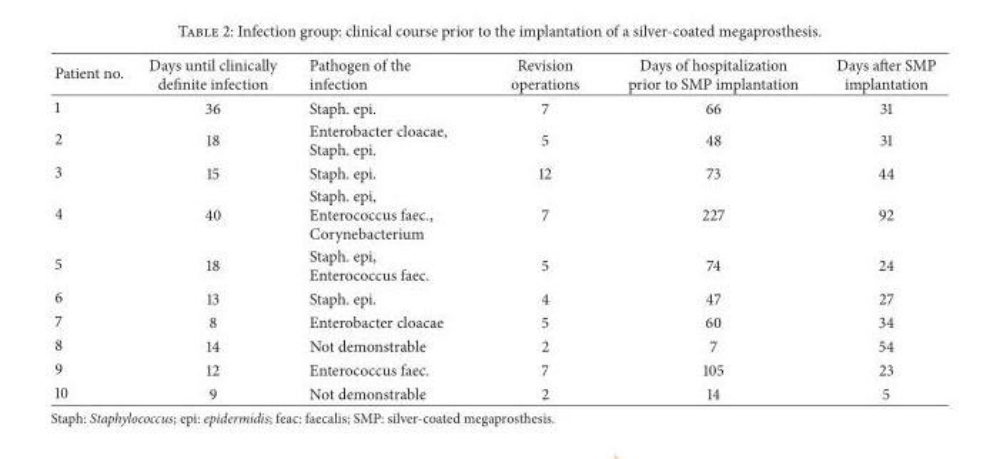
<table><thead><tr><td>Patient no.</td><td>Days until clinically definite infection</td><td>Pathogen of the infection</td><td>Revision operations</td><td>Days of hospitalization prior to SMP implantation</td><td>Days after SMP implantation</td></tr></thead><tbody><tr><td>1</td><td>36</td><td>Staph. epi.</td><td>7</td><td>66</td><td>31</td></tr><tr><td>2</td><td>18</td><td>Enterobacter cloacae, Staph. epi.</td><td>5</td><td>48</td><td>31</td></tr><tr><td>3</td><td>15</td><td>Staph. epi.</td><td>12</td><td>73</td><td>44</td></tr><tr><td>4</td><td>40</td><td>Staph. epi, Enterococcus faec., Corynebacterium</td><td>7</td><td>227</td><td>92</td></tr><tr><td>5</td><td>18</td><td>Staph. epi, Enterococcus faec.</td><td>5</td><td>74</td><td>24</td></tr><tr><td>6</td><td>13</td><td>Staph. epi.</td><td>4</td><td>47</td><td>27</td></tr><tr><td>7</td><td>8</td><td>Enterobacter cloacae</td><td>5</td><td>60</td><td>34</td></tr><tr><td>8</td><td>14</td><td>Not demonstrable</td><td>2</td><td>7</td><td>54</td></tr><tr><td>9</td><td>12</td><td>Enterococcus faec.</td><td>7</td><td>105</td><td>23</td></tr><tr><td>10</td><td>9</td><td>Not demonstrable</td><td>2</td><td>14</td><td>5</td></tr></tbody></table>